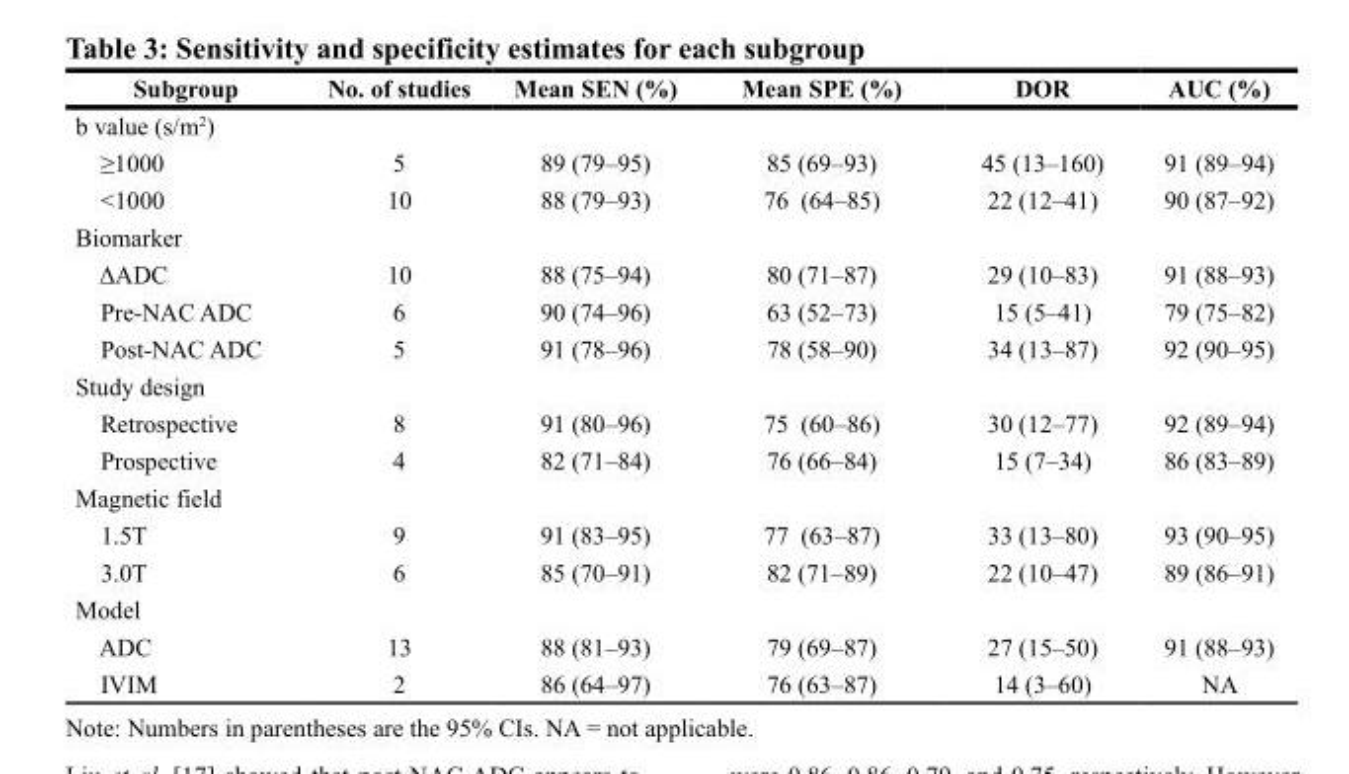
<table><thead><tr><td>Subgroup</td><td>No. of studies</td><td>Mean SEN (%)</td><td>Mean SPE (%)</td><td>DOR</td><td>AUC (%)</td></tr></thead><tbody><tr><td colspan="6">b value (s/m<sup>2</sup>)</td></tr><tr><td>≥1000</td><td>5</td><td>89 (79–95)</td><td>85 (69–93)</td><td>45 (13–160)</td><td>91 (89–94)</td></tr><tr><td>&lt;1000</td><td>10</td><td>88 (79–93)</td><td>76 (64–85)</td><td>22 (12–41)</td><td>90 (87–92)</td></tr><tr><td colspan="6">Biomarker</td></tr><tr><td>ΔADC</td><td>10</td><td>88 (75–94)</td><td>80 (71–87)</td><td>29 (10–83)</td><td>91 (88–93)</td></tr><tr><td>Pre-NAC ADC</td><td>6</td><td>90 (74–96)</td><td>63 (52–73)</td><td>15 (5–41)</td><td>79 (75–82)</td></tr><tr><td>Post-NAC ADC</td><td>5</td><td>91 (78–96)</td><td>78 (58–90)</td><td>34 (13–87)</td><td>92 (90–95)</td></tr><tr><td colspan="6">Study design</td></tr><tr><td>Retrospective</td><td>8</td><td>91 (80–96)</td><td>75 (60–86)</td><td>30 (12–77)</td><td>92 (89–94)</td></tr><tr><td>Prospective</td><td>4</td><td>82 (71–84)</td><td>76 (66–84)</td><td>15 (7–34)</td><td>86 (83–89)</td></tr><tr><td colspan="6">Magnetic field</td></tr><tr><td>1.5T</td><td>9</td><td>91 (83–95)</td><td>77 (63–87)</td><td>33 (13–80)</td><td>93 (90–95)</td></tr><tr><td>3.0T</td><td>6</td><td>85 (70–91)</td><td>82 (71–89)</td><td>22 (10–47)</td><td>89 (86–91)</td></tr><tr><td colspan="6">Model</td></tr><tr><td>ADC</td><td>13</td><td>88 (81–93)</td><td>79 (69–87)</td><td>27 (15–50)</td><td>91 (88–93)</td></tr><tr><td>IVIM</td><td>2</td><td>86 (64–97)</td><td>76 (63–87)</td><td>14 (3–60)</td><td>NA</td></tr></tbody></table>